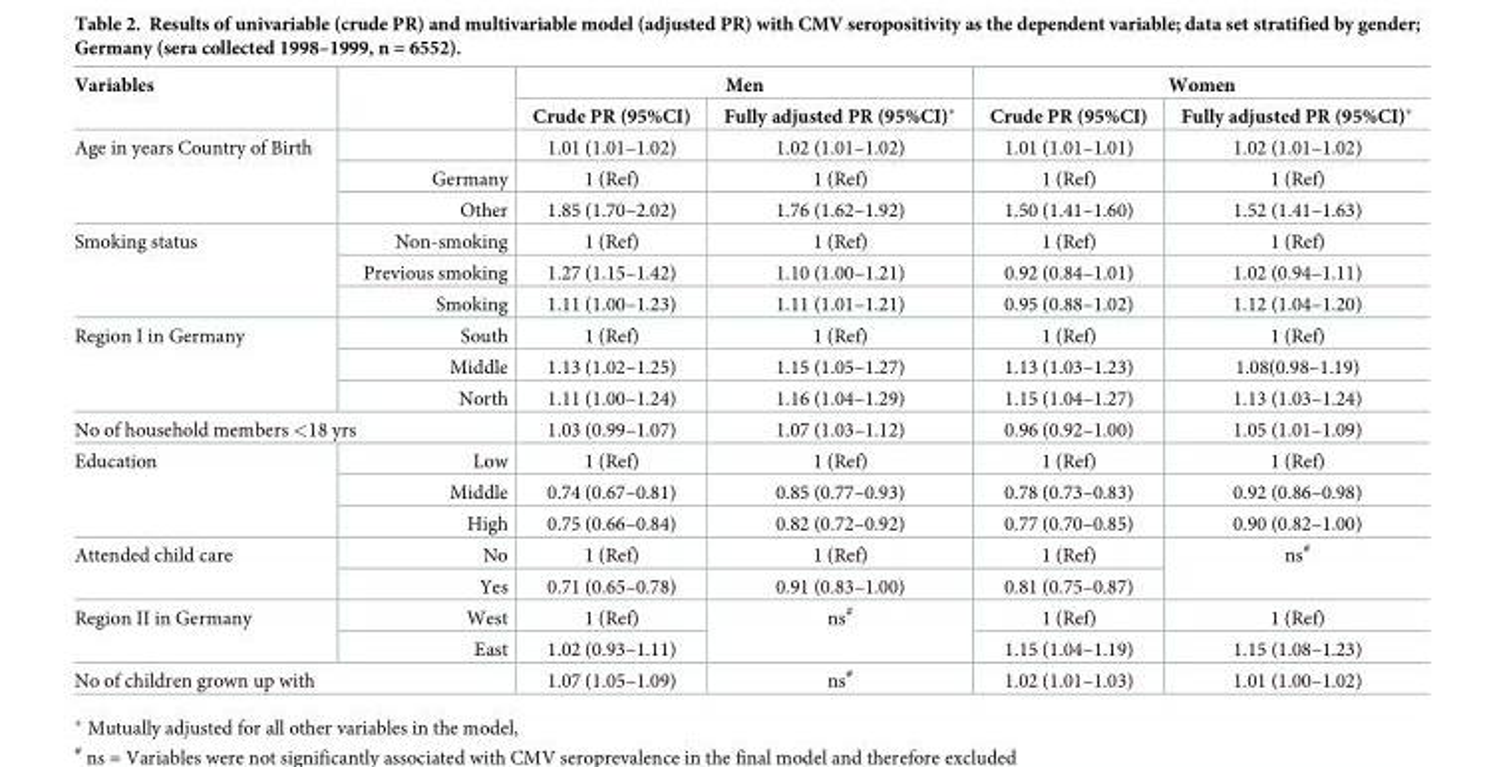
<table><thead><tr><td rowspan="2">Variables</td><td rowspan="2"></td><td colspan="2">Men</td><td colspan="2">Women</td></tr><tr><td>Crude PR (95%CI)</td><td>Fully adjusted PR (95%CI)*</td><td>Crude PR (95%CI)</td><td>Fully adjusted PR (95%CI)*</td></tr></thead><tbody><tr><td rowspan="3">Age in years Country of Birth</td><td></td><td>1.01 (1.01–1.02)</td><td>1.02 (1.01–1.02)</td><td>1.01 (1.01–1.01)</td><td>1.02 (1.01–1.02)</td></tr><tr><td>Germany</td><td>1 (Ref)</td><td>1 (Ref)</td><td>1 (Ref)</td><td>1 (Ref)</td></tr><tr><td>Other</td><td>1.85 (1.70–2.02)</td><td>1.76 (1.62–1.92)</td><td>1.50 (1.41–1.60)</td><td>1.52 (1.41–1.63)</td></tr><tr><td rowspan="3">Smoking status</td><td>Non-smoking</td><td>1 (Ref)</td><td>1 (Ref)</td><td>1 (Ref)</td><td>1 (Ref)</td></tr><tr><td>Previous smoking</td><td>1.27 (1.15–1.42)</td><td>1.10 (1.00–1.21)</td><td>0.92 (0.84–1.01)</td><td>1.02 (0.94–1.11)</td></tr><tr><td>Smoking</td><td>1.11 (1.00–1.23)</td><td>1.11 (1.01–1.21)</td><td>0.95 (0.88–1.02)</td><td>1.12 (1.04–1.20)</td></tr><tr><td rowspan="3">Region I in Germany</td><td>South</td><td>1 (Ref)</td><td>1 (Ref)</td><td>1 (Ref)</td><td>1 (Ref)</td></tr><tr><td>Middle</td><td>1.13 (1.02–1.25)</td><td>1.15 (1.05–1.27)</td><td>1.13 (1.03–1.23)</td><td>1.08(0.98–1.19)</td></tr><tr><td>North</td><td>1.11 (1.00–1.24)</td><td>1.16 (1.04–1.29)</td><td>1.15 (1.04–1.27)</td><td>1.13 (1.03–1.24)</td></tr><tr><td colspan="2">No of household members &lt;18 yrs</td><td>1.03 (0.99–1.07)</td><td>1.07 (1.03–1.12)</td><td>0.96 (0.92–1.00)</td><td>1.05 (1.01–1.09)</td></tr><tr><td rowspan="3">Education</td><td>Low</td><td>1 (Ref)</td><td>1 (Ref)</td><td>1 (Ref)</td><td>1 (Ref)</td></tr><tr><td>Middle</td><td>0.74 (0.67–0.81)</td><td>0.85 (0.77–0.93)</td><td>0.78 (0.73–0.83)</td><td>0.92 (0.86–0.98)</td></tr><tr><td>High</td><td>0.75 (0.66–0.84)</td><td>0.82 (0.72–0.92)</td><td>0.77 (0.70–0.85)</td><td>0.90 (0.82–1.00)</td></tr><tr><td rowspan="2">Attended child care</td><td>No</td><td>1 (Ref)</td><td>1 (Ref)</td><td>1 (Ref)</td><td rowspan="2">ns<sup>#</sup></td></tr><tr><td>Yes</td><td>0.71 (0.65–0.78)</td><td>0.91 (0.83–1.00)</td><td>0.81 (0.75–0.87)</td></tr><tr><td rowspan="2">Region II in Germany</td><td>West</td><td>1 (Ref)</td><td rowspan="2">ns<sup>#</sup></td><td>1 (Ref)</td><td>1 (Ref)</td></tr><tr><td>East</td><td>1.02 (0.93–1.11)</td><td>1.15 (1.04–1.19)</td><td>1.15 (1.08–1.23)</td></tr><tr><td colspan="2">No of children grown up with</td><td>1.07 (1.05–1.09)</td><td>ns<sup>#</sup></td><td>1.02 (1.01–1.03)</td><td>1.01 (1.00–1.02)</td></tr></tbody></table>